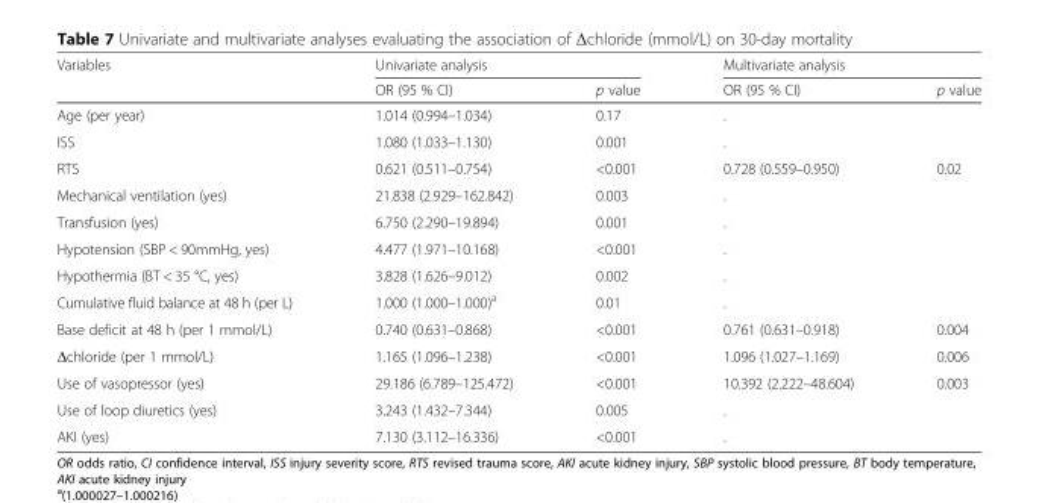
<table><thead><tr><td rowspan="2">Variables</td><td colspan="2">Univariate analysis</td><td colspan="2">Multivariate analysis</td></tr><tr><td>OR (95 % CI)</td><td>p value</td><td>OR (95 % CI)</td><td>p value</td></tr></thead><tbody><tr><td>Age (per year)</td><td>1.014 (0.994–1.034)</td><td>0.17</td><td>.</td><td></td></tr><tr><td>ISS</td><td>1.080 (1.033–1.130)</td><td>0.001</td><td>.</td><td></td></tr><tr><td>RTS</td><td>0.621 (0.511–0.754)</td><td>&lt;0.001</td><td>0.728 (0.559–0.950)</td><td>0.02</td></tr><tr><td>Mechanical ventilation (yes)</td><td>21.838 (2.929–162.842)</td><td>0.003</td><td>.</td><td></td></tr><tr><td>Transfusion (yes)</td><td>6.750 (2.290–19.894)</td><td>0.001</td><td>.</td><td></td></tr><tr><td>Hypotension (SBP &lt; 90mmHg, yes)</td><td>4.477 (1.971–10.168)</td><td>&lt;0.001</td><td>.</td><td></td></tr><tr><td>Hypothermia (BT &lt; 35 °C, yes)</td><td>3.828 (1.626–9.012)</td><td>0.002</td><td>.</td><td></td></tr><tr><td>Cumulative fluid balance at 48 h (per L)</td><td>1.000 (1.000–1.000)<sup>a</sup></td><td>0.01</td><td>.</td><td></td></tr><tr><td>Base deficit at 48 h (per 1 mmol/L)</td><td>0.740 (0.631–0.868)</td><td>&lt;0.001</td><td>0.761 (0.631–0.918)</td><td>0.004</td></tr><tr><td>Δchloride (per 1 mmol/L)</td><td>1.165 (1.096–1.238)</td><td>&lt;0.001</td><td>1.096 (1.027–1.169)</td><td>0.006</td></tr><tr><td>Use of vasopressor (yes)</td><td>29.186 (6.789–125.472)</td><td>&lt;0.001</td><td>10.392 (2.222–48.604)</td><td>0.003</td></tr><tr><td>Use of loop diuretics (yes)</td><td>3.243 (1.432–7.344)</td><td>0.005</td><td>.</td><td></td></tr><tr><td>AKI (yes)</td><td>7.130 (3.112–16.336)</td><td>&lt;0.001</td><td>.</td><td></td></tr></tbody></table>